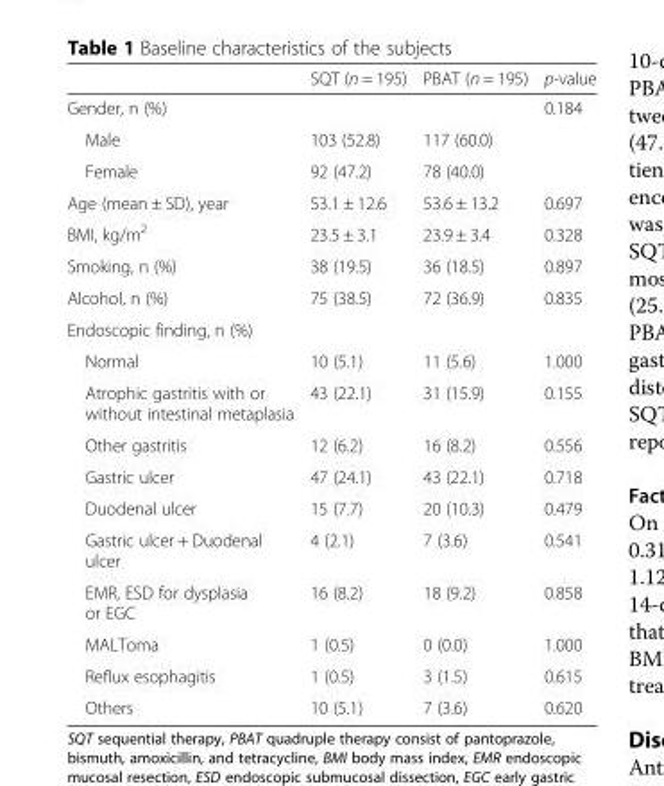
<table><thead><tr><td></td><td>SQT (n = 195)</td><td>PBAT (n = 195)</td><td>p-value</td></tr></thead><tbody><tr><td>Gender, n (%)</td><td></td><td></td><td>0.184</td></tr><tr><td>Male</td><td>103 (52.8)</td><td>117 (60.0)</td><td></td></tr><tr><td>Female</td><td>92 (47.2)</td><td>78 (40.0)</td><td></td></tr><tr><td>Age (mean ± SD), year</td><td>53.1 ± 12.6</td><td>53.6 ± 13.2</td><td>0.697</td></tr><tr><td>BMI, kg/m<sup>2</sup></td><td>23.5 ± 3.1</td><td>23.9 ± 3.4</td><td>0.328</td></tr><tr><td>Smoking, n (%)</td><td>38 (19.5)</td><td>36 (18.5)</td><td>0.897</td></tr><tr><td>Alcohol, n (%)</td><td>75 (38.5)</td><td>72 (36.9)</td><td>0.835</td></tr><tr><td colspan="4">Endoscopic finding, n (%)</td></tr><tr><td>Normal</td><td>10 (5.1)</td><td>11 (5.6)</td><td>1.000</td></tr><tr><td>Atrophic gastritis with or without intestinal metaplasia</td><td>43 (22.1)</td><td>31 (15.9)</td><td>0.155</td></tr><tr><td>Other gastritis</td><td>12 (6.2)</td><td>16 (8.2)</td><td>0.556</td></tr><tr><td>Gastric ulcer</td><td>47 (24.1)</td><td>43 (22.1)</td><td>0.718</td></tr><tr><td>Duodenal ulcer</td><td>15 (7.7)</td><td>20 (10.3)</td><td>0.479</td></tr><tr><td>Gastric ulcer + Duodenal ulcer</td><td>4 (2.1)</td><td>7 (3.6)</td><td>0.541</td></tr><tr><td>EMR, ESD for dysplasia or EGC</td><td>16 (8.2)</td><td>18 (9.2)</td><td>0.858</td></tr><tr><td>MALToma</td><td>1 (0.5)</td><td>0 (0.0)</td><td>1.000</td></tr><tr><td>Reflux esophagitis</td><td>1 (0.5)</td><td>3 (1.5)</td><td>0.615</td></tr><tr><td>Others</td><td>10 (5.1)</td><td>7 (3.6)</td><td>0.620</td></tr></tbody></table>